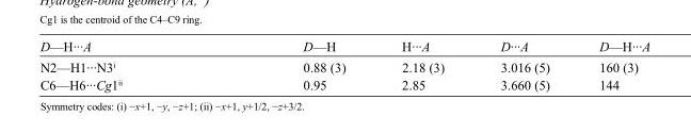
<table><tbody><tr><td>D—H···A</td><td>D—H</td><td>H···A</td><td>D···A</td><td>D—H···A</td></tr><tr><td>N2—H1···N3<sup>i</sup></td><td>0.88 (3)</td><td>2.18 (3)</td><td>3.016 (5)</td><td>160 (3)</td></tr><tr><td>C6—H6···Cg1<sup>ii</sup></td><td>0.95</td><td>2.85</td><td>3.660 (5)</td><td>144</td></tr></tbody></table>